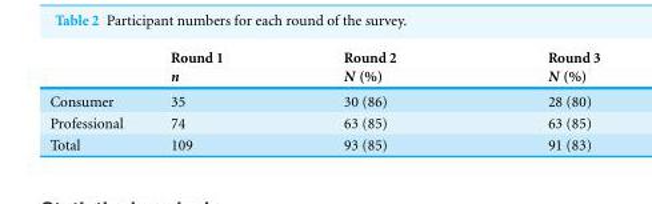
<table><thead><tr><td></td><td>Round 1 n</td><td>Round 2 N (%)</td><td>Round 3 N (%)</td></tr></thead><tbody><tr><td>Consumer</td><td>35</td><td>30 (86)</td><td>28 (80)</td></tr><tr><td>Professional</td><td>74</td><td>63 (85)</td><td>63 (85)</td></tr><tr><td>Total</td><td>109</td><td>93 (85)</td><td>91 (83)</td></tr></tbody></table>